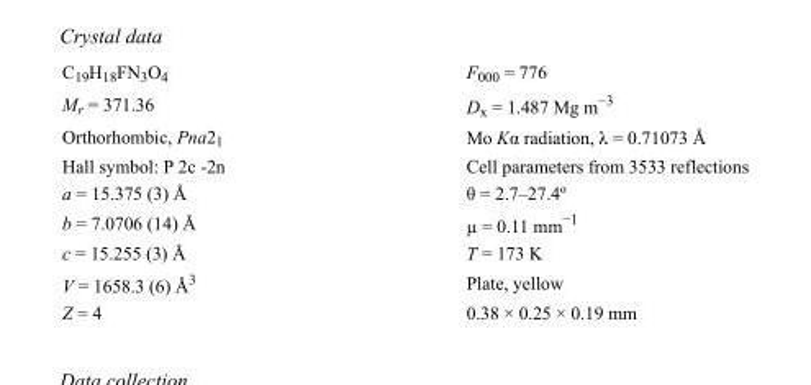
<table><tbody><tr><td>C<sub>19</sub>H<sub>18</sub>FN<sub>3</sub>O<sub>4</sub></td><td>F000 = 776</td></tr><tr><td>M<sub>r</sub> = 371.36</td><td>D<sub>x</sub> = 1.487 Mg m<sup>−3</sup></td></tr><tr><td>Orthorhombic, Pna2<sub>1</sub></td><td>Mo Kα radiation, λ = 0.71073 Å</td></tr><tr><td>Hall symbol: P 2c -2n</td><td>Cell parameters from 3533 reflections</td></tr><tr><td>a = 15.375 (3) Å</td><td>θ = 2.7–27.4º</td></tr><tr><td>b = 7.0706 (14) Å</td><td>µ = 0.11 mm<sup>−1</sup></td></tr><tr><td>c = 15.255 (3) Å</td><td>T = 173 K</td></tr><tr><td>V = 1658.3 (6) Å<sup>3</sup></td><td>Plate, yellow</td></tr><tr><td>Z = 4</td><td>0.38 × 0.25 × 0.19 mm</td></tr></tbody></table>